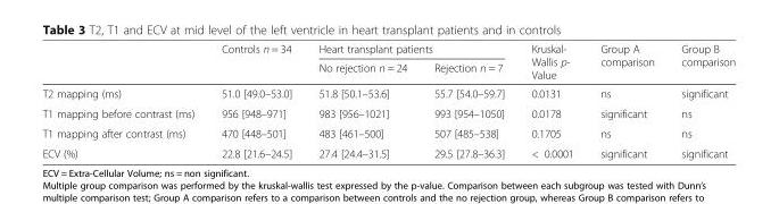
<table><thead><tr><td rowspan="2"></td><td rowspan="2">Controls n = 34</td><td colspan="2">Heart transplant patients</td><td rowspan="2">Kruskal- Wallis p- Value</td><td rowspan="2">Group A comparison</td><td rowspan="2">Group B comparison</td></tr><tr><td>No rejection n = 24</td><td>Rejection n = 7</td></tr></thead><tbody><tr><td>T2 mapping (ms)</td><td>51.0 [49.0–53.0]</td><td>51.8 [50.1–53.6]</td><td>55.7 [54.0–59.7]</td><td>0.0131</td><td>ns</td><td>significant</td></tr><tr><td>T1 mapping before contrast (ms)</td><td>956 [948–971]</td><td>983 [956–1021]</td><td>993 [954–1050]</td><td>0.0178</td><td>significant</td><td>ns</td></tr><tr><td>T1 mapping after contrast (ms)</td><td>470 [448–501]</td><td>483 [461–500]</td><td>507 [485–538]</td><td>0.1705</td><td>ns</td><td>ns</td></tr><tr><td>ECV (%)</td><td>22.8 [21.6–24.5]</td><td>27.4 [24.4–31.5]</td><td>29.5 [27.8–36.3]</td><td>&lt; 0.0001</td><td>significant</td><td>significant</td></tr></tbody></table>